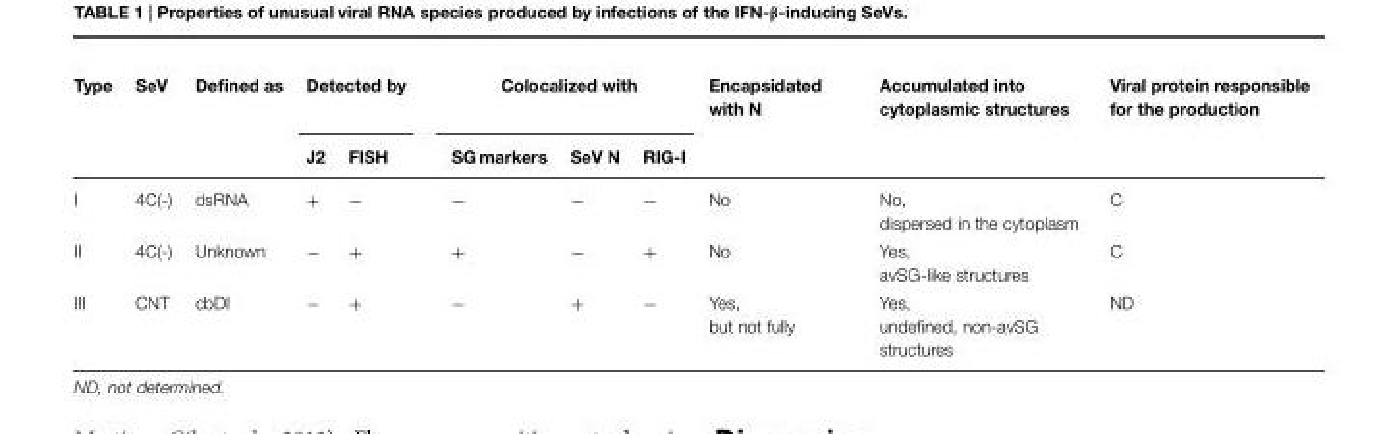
<table><thead><tr><td rowspan="2">Type</td><td rowspan="2">SeV</td><td rowspan="2">Defined as</td><td colspan="2">Detected by</td><td colspan="3">Colocalized with</td><td rowspan="2">Encapsidated with N</td><td rowspan="2">Accumulated into cytoplasmic structures</td><td rowspan="2">Viral protein responsible for the production</td></tr><tr><td>J2</td><td>FISH</td><td>SG markers</td><td>SeV N</td><td>RIG-I</td></tr></thead><tbody><tr><td>I</td><td>4C(-)</td><td>dsRNA</td><td>+</td><td>−</td><td>−</td><td>−</td><td>−</td><td>No</td><td>No, dispersed in the cytoplasm</td><td>C</td></tr><tr><td>II</td><td>4C(-)</td><td>Unknown</td><td>−</td><td>+</td><td>+</td><td>−</td><td>+</td><td>No</td><td>Yes, avSG-like structures</td><td>C</td></tr><tr><td>III</td><td>CNT</td><td>cbDI</td><td>−</td><td>+</td><td>−</td><td>+</td><td>−</td><td>Yes, but not fully</td><td>Yes, undefined, non-avSG structures</td><td>ND</td></tr></tbody></table>